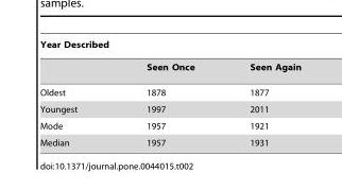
<table><thead><tr><td colspan="3">Year Described</td></tr><tr><td></td><td>Seen Once</td><td>Seen Again</td></tr></thead><tbody><tr><td>Oldest</td><td>1878</td><td>1877</td></tr><tr><td>Youngest</td><td>1997</td><td>2011</td></tr><tr><td>Mode</td><td>1957</td><td>1921</td></tr><tr><td>Median</td><td>1957</td><td>1931</td></tr></tbody></table>